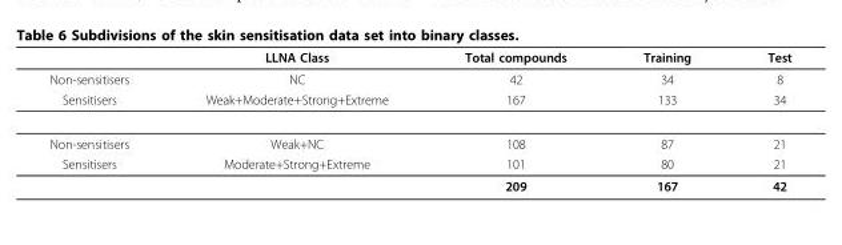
<table><thead><tr><td></td><td>LLNA Class</td><td>Total compounds</td><td>Training</td><td>Test</td></tr></thead><tbody><tr><td>Non-sensitisers</td><td>NC</td><td>42</td><td>34</td><td>8</td></tr><tr><td>Sensitisers</td><td>Weak+Moderate+Strong+Extreme</td><td>167</td><td>133</td><td>34</td></tr><tr><td>Non-sensitisers</td><td>Weak+NC</td><td>108</td><td>87</td><td>21</td></tr><tr><td rowspan="2">Sensitisers</td><td>Moderate+Strong+Extreme</td><td>101</td><td>80</td><td>21</td></tr><tr><td></td><td>209</td><td>167</td><td>42</td></tr></tbody></table>